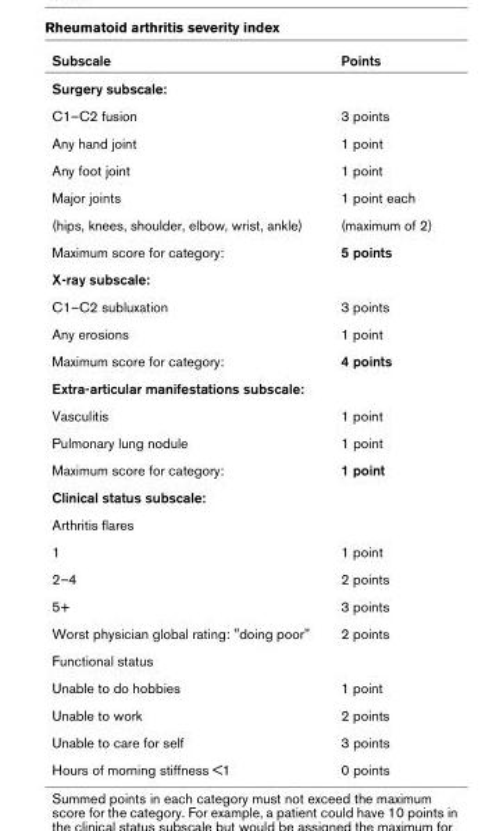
<table><thead><tr><td>Subscale</td><td>Points</td></tr></thead><tbody><tr><td colspan="2">Surgery subscale:</td></tr><tr><td>C1–C2 fusion</td><td>3 points</td></tr><tr><td>Any hand joint</td><td>1 point</td></tr><tr><td>Any foot joint</td><td>1 point</td></tr><tr><td>Major joints</td><td>1 point each</td></tr><tr><td>(hips, knees, shoulder, elbow, wrist, ankle)</td><td>(maximum of 2)</td></tr><tr><td>Maximum score for category:</td><td>5 points</td></tr><tr><td colspan="2">X-ray subscale:</td></tr><tr><td>C1–C2 subluxation</td><td>3 points</td></tr><tr><td>Any erosions</td><td>1 point</td></tr><tr><td>Maximum score for category:</td><td>4 points</td></tr><tr><td colspan="2">Extra-articular manifestations subscale:</td></tr><tr><td>Vasculitis</td><td>1 point</td></tr><tr><td>Pulmonary lung nodule</td><td>1 point</td></tr><tr><td>Maximum score for category:</td><td>1 point</td></tr><tr><td colspan="2">Clinical status subscale:</td></tr><tr><td colspan="2">Arthritis flares</td></tr><tr><td>1</td><td>1 point</td></tr><tr><td>2–4</td><td>2 points</td></tr><tr><td>5+</td><td>3 points</td></tr><tr><td>Worst physician global rating: &quot;doing poor&quot;</td><td>2 points</td></tr><tr><td colspan="2">Functional status</td></tr><tr><td>Unable to do hobbies</td><td>1 point</td></tr><tr><td>Unable to work</td><td>2 points</td></tr><tr><td>Unable to care for self</td><td>3 points</td></tr><tr><td>Hours of morning stiffness &lt;1</td><td>0 points</td></tr></tbody></table>